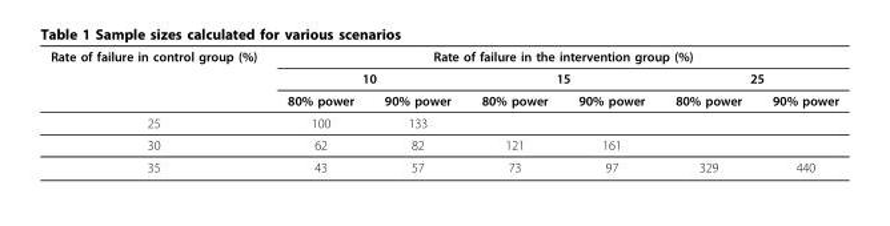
<table><thead><tr><td rowspan="3">Rate of failure in control group (%)</td><td colspan="6">Rate of failure in the intervention group (%)</td></tr><tr><td colspan="2">10</td><td colspan="2">15</td><td colspan="2">25</td></tr><tr><td>80% power</td><td>90% power</td><td>80% power</td><td>90% power</td><td>80% power</td><td>90% power</td></tr></thead><tbody><tr><td>25</td><td>100</td><td>133</td><td></td><td></td><td></td><td></td></tr><tr><td>30</td><td>62</td><td>82</td><td>121</td><td>161</td><td></td><td></td></tr><tr><td>35</td><td>43</td><td>57</td><td>73</td><td>97</td><td>329</td><td>440</td></tr></tbody></table>